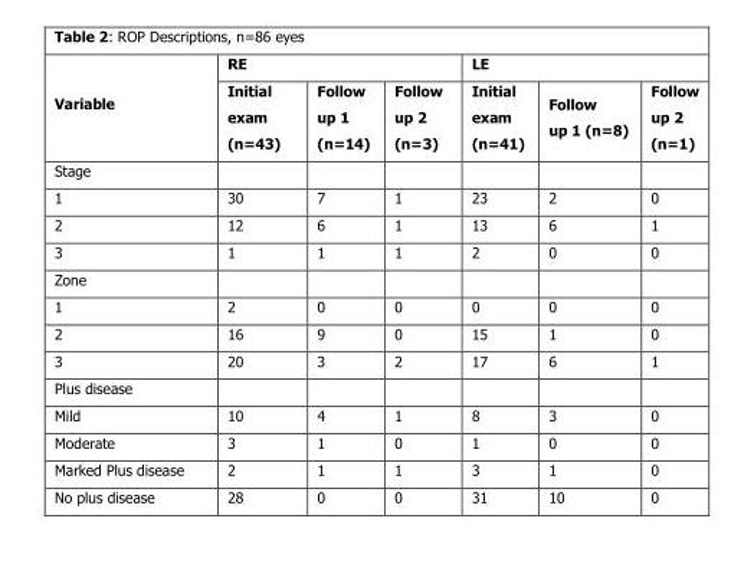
<table><thead><tr><td rowspan="2">Variable</td><td colspan="3">RE</td><td colspan="3">LE</td></tr><tr><td>Initial exam (n=43)</td><td>Follow up 1 (n=14)</td><td>Follow up 2 (n=3)</td><td>Initial exam (n=41)</td><td>Follow up 1 (n=8)</td><td>Follow up 2 (n=1)</td></tr></thead><tbody><tr><td colspan="7">Stage</td></tr><tr><td>1</td><td>30</td><td>7</td><td>1</td><td>23</td><td>2</td><td>0</td></tr><tr><td>2</td><td>12</td><td>6</td><td>1</td><td>13</td><td>6</td><td>1</td></tr><tr><td>3</td><td>1</td><td>1</td><td>1</td><td>2</td><td>0</td><td>0</td></tr><tr><td colspan="7">Zone</td></tr><tr><td>1</td><td>2</td><td>0</td><td>0</td><td>0</td><td>0</td><td>0</td></tr><tr><td>2</td><td>16</td><td>9</td><td>0</td><td>15</td><td>1</td><td>0</td></tr><tr><td>3</td><td>20</td><td>3</td><td>2</td><td>17</td><td>6</td><td>1</td></tr><tr><td colspan="7">Plus disease</td></tr><tr><td>Mild</td><td>10</td><td>4</td><td>1</td><td>8</td><td>3</td><td>0</td></tr><tr><td>Moderate</td><td>3</td><td>1</td><td>0</td><td>1</td><td>0</td><td>0</td></tr><tr><td>Marked Plus disease</td><td>2</td><td>1</td><td>1</td><td>3</td><td>1</td><td>0</td></tr><tr><td>No plus disease</td><td>28</td><td>0</td><td>0</td><td>31</td><td>10</td><td>0</td></tr></tbody></table>